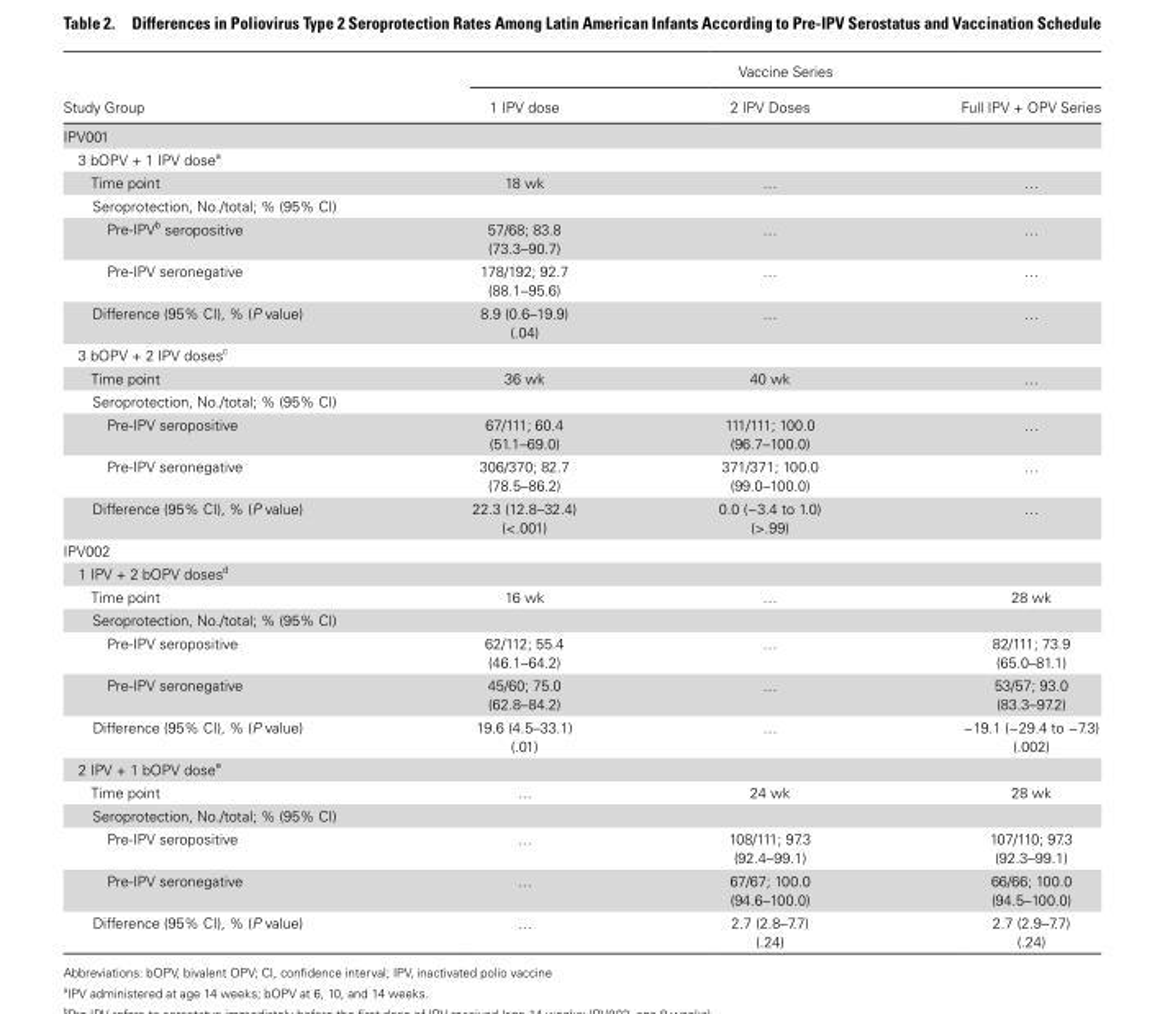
<table><thead><tr><td rowspan="2">Study Group</td><td colspan="3">Vaccine Series</td></tr><tr><td>1 IPV dose</td><td>2 IPV Doses</td><td>Full IPV + OPV Series</td></tr></thead><tbody><tr><td colspan="4">IPV001</td></tr><tr><td colspan="4">3 bOPV + 1 IPV dose<sup>a</sup></td></tr><tr><td>Time point</td><td>18 wk</td><td>…</td><td>…</td></tr><tr><td colspan="4">Seroprotection, No./total; % (95% CI)</td></tr><tr><td>Pre-IPV<sup>b</sup> seropositive</td><td>57/68; 83.8 (73.3–90.7)</td><td>…</td><td>…</td></tr><tr><td>Pre-IPV seronegative</td><td>178/192; 92.7 (88.1–95.6)</td><td>…</td><td>…</td></tr><tr><td>Difference (95% CI), % (P value)</td><td>8.9 (0.6–19.9) (.04)</td><td>…</td><td>…</td></tr><tr><td colspan="4">3 bOPV + 2 IPV doses<sup>c</sup></td></tr><tr><td>Time point</td><td>36 wk</td><td>40 wk</td><td>…</td></tr><tr><td colspan="4">Seroprotection, No./total; % (95% CI)</td></tr><tr><td>Pre-IPV seropositive</td><td>67/111; 60.4 (51.1–69.0)</td><td>111/111; 100.0 (96.7–100.0)</td><td>…</td></tr><tr><td>Pre-IPV seronegative</td><td>306/370; 82.7 (78.5–86.2)</td><td>371/371; 100.0 (99.0–100.0)</td><td>…</td></tr><tr><td>Difference (95% CI), % (P value)</td><td>22.3 (12.8–32.4) (&lt;.001)</td><td>0.0 (−3.4 to 1.0) (&gt;.99)</td><td>…</td></tr><tr><td colspan="4">IPV002</td></tr><tr><td colspan="4">1 IPV + 2 bOPV doses<sup>d</sup></td></tr><tr><td>Time point</td><td>16 wk</td><td>…</td><td>28 wk</td></tr><tr><td colspan="4">Seroprotection, No./total; % (95% CI)</td></tr><tr><td>Pre-IPV seropositive</td><td>62/112; 55.4 (46.1–64.2)</td><td>…</td><td>82/111; 73.9 (65.0–81.1)</td></tr><tr><td>Pre-IPV seronegative</td><td>45/60; 75.0 (62.8–84.2)</td><td>…</td><td>53/57; 93.0 (83.3–97.2)</td></tr><tr><td>Difference (95% CI), % (P value)</td><td>19.6 (4.5–33.1) (.01)</td><td>…</td><td>−19.1 (−29.4 to −7.3) (.002)</td></tr><tr><td colspan="4">2 IPV + 1 bOPV dose<sup>e</sup></td></tr><tr><td>Time point</td><td>…</td><td>24 wk</td><td>28 wk</td></tr><tr><td colspan="4">Seroprotection, No./total; % (95% CI)</td></tr><tr><td>Pre-IPV seropositive</td><td>…</td><td>108/111; 97.3 (92.4–99.1)</td><td>107/110; 97.3 (92.3–99.1)</td></tr><tr><td>Pre-IPV seronegative</td><td>…</td><td>67/67; 100.0 (94.6–100.0)</td><td>66/66; 100.0 (94.5–100.0)</td></tr><tr><td>Difference (95% CI), % (P value)</td><td>…</td><td>2.7 (2.8–7.7) (.24)</td><td>2.7 (2.9–7.7) (.24)</td></tr></tbody></table>